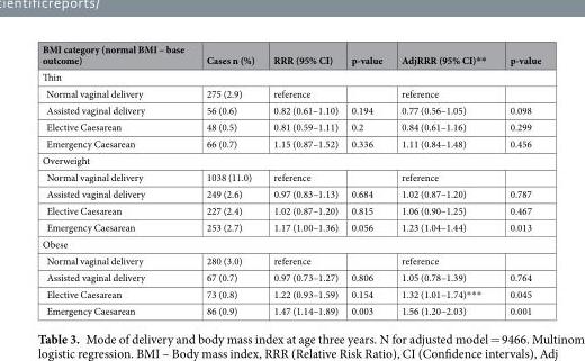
<table><thead><tr><td>BMI category (normal BMI – base outcome)</td><td>Cases n (%)</td><td>RRR (95% CI)</td><td>p-value</td><td>AdjRRR (95% CI)**</td><td>p-value</td></tr></thead><tbody><tr><td colspan="6">Thin</td></tr><tr><td>Normal vaginal delivery</td><td>275 (2.9)</td><td>reference</td><td></td><td>reference</td><td></td></tr><tr><td>Assisted vaginal delivery</td><td>56 (0.6)</td><td>0.82 (0.61–1.10)</td><td>0.194</td><td>0.77 (0.56–1.05)</td><td>0.098</td></tr><tr><td>Elective Caesarean</td><td>48 (0.5)</td><td>0.81 (0.59–1.11)</td><td>0.2</td><td>0.84 (0.61–1.16)</td><td>0.299</td></tr><tr><td>Emergency Caesarean</td><td>66 (0.7)</td><td>1.15 (0.87–1.52)</td><td>0.336</td><td>1.11 (0.84–1.48)</td><td>0.456</td></tr><tr><td colspan="6">Overweight</td></tr><tr><td>Normal vaginal delivery</td><td>1038 (11.0)</td><td>reference</td><td></td><td>reference</td><td></td></tr><tr><td>Assisted vaginal delivery</td><td>249 (2.6)</td><td>0.97 (0.83–1.13)</td><td>0.684</td><td>1.02 (0.87–1.20)</td><td>0.787</td></tr><tr><td>Elective Caesarean</td><td>227 (2.4)</td><td>1.02 (0.87–1.20)</td><td>0.815</td><td>1.06 (0.90–1.25)</td><td>0.467</td></tr><tr><td>Emergency Caesarean</td><td>253 (2.7)</td><td>1.17 (1.00–1.36)</td><td>0.056</td><td>1.23 (1.04–1.44)</td><td>0.013</td></tr><tr><td colspan="6">Obese</td></tr><tr><td>Normal vaginal delivery</td><td>280 (3.0)</td><td>reference</td><td></td><td>reference</td><td></td></tr><tr><td>Assisted vaginal delivery</td><td>67 (0.7)</td><td>0.97 (0.73–1.27)</td><td>0.806</td><td>1.05 (0.78–1.39)</td><td>0.764</td></tr><tr><td>Elective Caesarean</td><td>73 (0.8)</td><td>1.22 (0.93–1.59)</td><td>0.154</td><td>1.32 (1.01–1.74)***</td><td>0.045</td></tr><tr><td>Emergency Caesarean</td><td>86 (0.9)</td><td>1.47 (1.14–1.89)</td><td>0.003</td><td>1.56 (1.20–2.03)</td><td>0.001</td></tr></tbody></table>